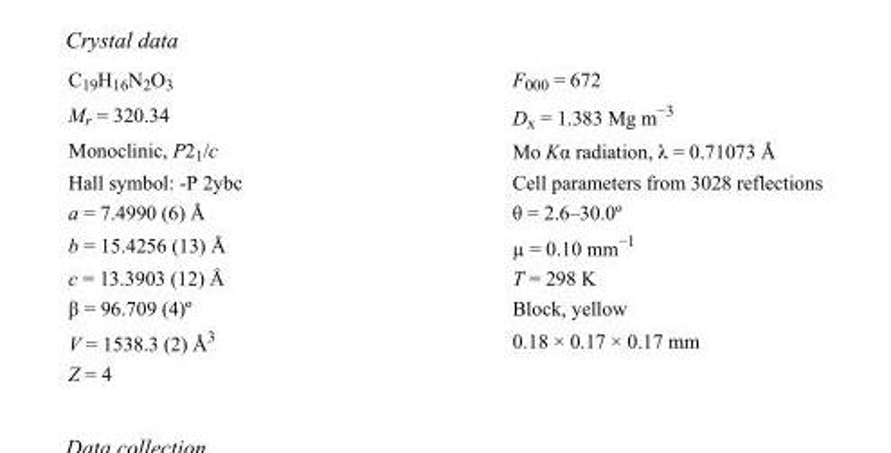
<table><tbody><tr><td>C<sub>19</sub>H<sub>16</sub>N<sub>2</sub>O<sub>3</sub></td><td>F000 = 672</td></tr><tr><td>M<sub>r</sub> = 320.34</td><td>D<sub>x</sub> = 1.383 Mg m<sup>−3</sup></td></tr><tr><td>Monoclinic, P2<sub>1</sub>/c</td><td>Mo Kα radiation, λ = 0.71073 Å</td></tr><tr><td>Hall symbol: -P 2ybc</td><td>Cell parameters from 3028 reflections</td></tr><tr><td>a = 7.4990 (6) Å</td><td>θ = 2.6–30.0º</td></tr><tr><td>b = 15.4256 (13) Å</td><td>µ = 0.10 mm<sup>−1</sup></td></tr><tr><td>c = 13.3903 (12) Å</td><td>T = 298 K</td></tr><tr><td>β = 96.709 (4)º</td><td>Block, yellow</td></tr><tr><td>V = 1538.3 (2) Å<sup>3</sup></td><td>0.18 × 0.17 × 0.17 mm</td></tr><tr><td>Z = 4</td><td></td></tr></tbody></table>